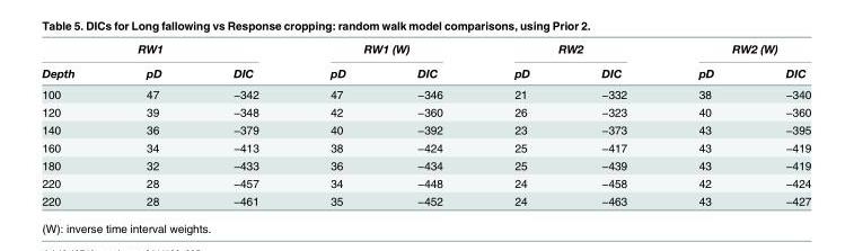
<table><thead><tr><td colspan="3">RW1</td><td colspan="2">RW1 (W)</td><td colspan="2">RW2</td><td colspan="2">RW2 (W)</td></tr><tr><td>Depth</td><td>pD</td><td>DIC</td><td>pD</td><td>DIC</td><td>pD</td><td>DIC</td><td>pD</td><td>DIC</td></tr></thead><tbody><tr><td>100</td><td>47</td><td>−342</td><td>47</td><td>−346</td><td>21</td><td>−332</td><td>38</td><td>−340</td></tr><tr><td>120</td><td>39</td><td>−348</td><td>42</td><td>−360</td><td>26</td><td>−323</td><td>40</td><td>−360</td></tr><tr><td>140</td><td>36</td><td>−379</td><td>40</td><td>−392</td><td>23</td><td>−373</td><td>43</td><td>−395</td></tr><tr><td>160</td><td>34</td><td>−413</td><td>38</td><td>−424</td><td>25</td><td>−417</td><td>43</td><td>−419</td></tr><tr><td>180</td><td>32</td><td>−433</td><td>36</td><td>−434</td><td>25</td><td>−439</td><td>43</td><td>−419</td></tr><tr><td>220</td><td>28</td><td>−457</td><td>34</td><td>−448</td><td>24</td><td>−458</td><td>42</td><td>−424</td></tr><tr><td>220</td><td>28</td><td>−461</td><td>35</td><td>−452</td><td>24</td><td>−463</td><td>43</td><td>−427</td></tr></tbody></table>